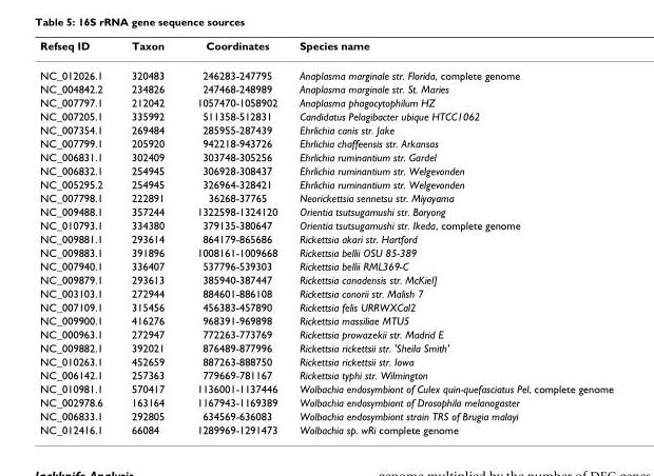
<table><thead><tr><td>Refseq ID</td><td>Taxon</td><td>Coordinates</td><td>Species name</td></tr></thead><tbody><tr><td>NC_012026.1</td><td>320483</td><td>246283-247795</td><td>Anaplasma marginale str. Florida, complete genome</td></tr><tr><td>NC_004842.2</td><td>234826</td><td>247468-248989</td><td>Anaplasma marginale str. St. Maries</td></tr><tr><td>NC_007797.1</td><td>212042</td><td>1057470-1058902</td><td>Anaplasma phagocytophilum HZ</td></tr><tr><td>NC_007205.1</td><td>335992</td><td>511358-512831</td><td>Candidatus Pelagibacter ubique HTCC1062</td></tr><tr><td>NC_007354.1</td><td>269484</td><td>285955-287439</td><td>Ehrlichia canis str. Jake</td></tr><tr><td>NC_007799.1</td><td>205920</td><td>942218-943726</td><td>Ehrlichia chaffeensis str. Arkansas</td></tr><tr><td>NC_006831.1</td><td>302409</td><td>303748-305256</td><td>Ehrlichia ruminantium str. Gardel</td></tr><tr><td>NC_006832.1</td><td>254945</td><td>306928-308437</td><td>Ehrlichia ruminantium str. Welgevonden</td></tr><tr><td>NC_005295.2</td><td>254945</td><td>326964-328421</td><td>Ehrlichia ruminantium str. Welgevonden</td></tr><tr><td>NC_007798.1</td><td>222891</td><td>36268-37765</td><td>Neorickettsia sennetsu str. Miyayama</td></tr><tr><td>NC_009488.1</td><td>357244</td><td>1322598-1324120</td><td>Orientia tsutsugamushi str. Boryong</td></tr><tr><td>NC_010793.1</td><td>334380</td><td>379135-380647</td><td>Orientia tsutsugamushi str. Ikeda, complete genome</td></tr><tr><td>NC_009881.1</td><td>293614</td><td>864179-865686</td><td>Rickettsia akari str. Hartford</td></tr><tr><td>NC_009883.1</td><td>391896</td><td>1008161-1009668</td><td>Rickettsia bellii OSU 85-389</td></tr><tr><td>NC_007940.1</td><td>336407</td><td>537796-539303</td><td>Rickettsia bellii RML369-C</td></tr><tr><td>NC_009879.1</td><td>293613</td><td>385940-387447</td><td>Rickettsia canadensis str. McKiel]</td></tr><tr><td>NC_003103.1</td><td>272944</td><td>884601-886108</td><td>Rickettsia conorii str. Malish 7</td></tr><tr><td>NC_007109.1</td><td>315456</td><td>456383-457890</td><td>Rickettsia felis URRWXCal2</td></tr><tr><td>NC_009900.1</td><td>416276</td><td>968391-969898</td><td>Rickettsia massiliae MTU5</td></tr><tr><td>NC_000963.1</td><td>272947</td><td>772263-773769</td><td>Rickettsia prowazekii str. Madrid E</td></tr><tr><td>NC_009882.1</td><td>392021</td><td>876489-877996</td><td>Rickettsia rickettsii str. &#x27;Sheila Smith&#x27;</td></tr><tr><td>NC_010263.1</td><td>452659</td><td>887263-888750</td><td>Rickettsia rickettsii str. Iowa</td></tr><tr><td>NC_006142.1</td><td>257363</td><td>779669-781167</td><td>Rickettsia typhi str. Wilmington</td></tr><tr><td>NC_010981.1</td><td>570417</td><td>1136001-1137446</td><td>Wolbachia endosymbiont of Culex quin-quefasciatus Pel, complete genome</td></tr><tr><td>NC_002978.6</td><td>163164</td><td>1167943-1169389</td><td>Wolbachia endosymbiont of Drosophila melanogaster</td></tr><tr><td>NC_006833.1</td><td>292805</td><td>634569-636083</td><td>Wolbachia endosymbiont strain TRS of Brugia malayi</td></tr><tr><td>NC_012416.1</td><td>66084</td><td>1289969-1291473</td><td>Wolbachia sp. wRi complete genome</td></tr></tbody></table>